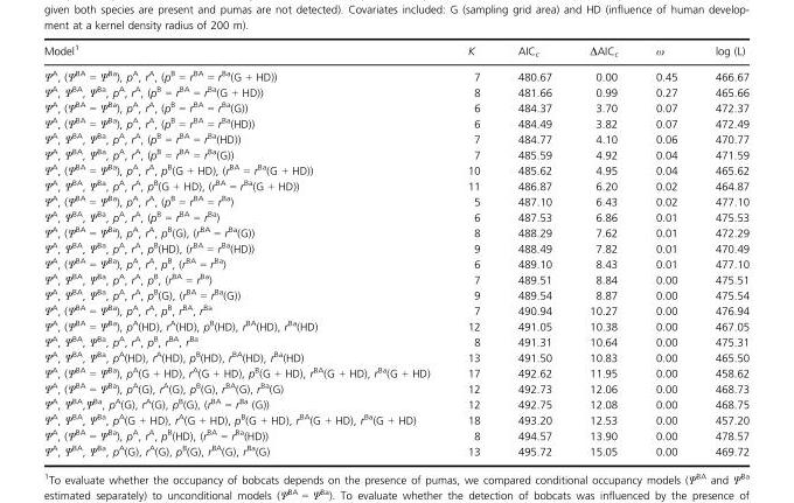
<table><thead><tr><td>Model1</td><td>K</td><td>AIC<sub>c</sub></td><td>ΔAIC<sub>c</sub></td><td>ω</td><td>log (L)</td></tr></thead><tbody><tr><td>Ψ<sup>A</sup>, (Ψ<sup>BA</sup> = Ψ<sup>Ba</sup>), p<sup>A</sup>, r<sup>A</sup>, (p<sup>B</sup> = r<sup>BA</sup> = r<sup>Ba</sup>(G + HD))</td><td>7</td><td>480.67</td><td>0.00</td><td>0.45</td><td>466.67</td></tr><tr><td>Ψ<sup>A</sup>, Ψ<sup>BA</sup>, Ψ<sup>Ba</sup>, p<sup>A</sup>, r<sup>A</sup>, (p<sup>B</sup> = r<sup>BA</sup> = r<sup>Ba</sup>(G + HD))</td><td>8</td><td>481.66</td><td>0.99</td><td>0.27</td><td>465.66</td></tr><tr><td>Ψ<sup>A</sup>, (Ψ<sup>BA</sup> = Ψ<sup>Ba</sup>), p<sup>A</sup>, r<sup>A</sup>, (p<sup>B</sup> = r<sup>BA</sup> = r<sup>Ba</sup>(G))</td><td>6</td><td>484.37</td><td>3.70</td><td>0.07</td><td>472.37</td></tr><tr><td>Ψ<sup>A</sup>, (Ψ<sup>BA</sup> = Ψ<sup>Ba</sup>), p<sup>A</sup>, r<sup>A</sup>, (p<sup>B</sup> = r<sup>BA</sup> = r<sup>Ba</sup>(HD))</td><td>6</td><td>484.49</td><td>3.82</td><td>0.07</td><td>472.49</td></tr><tr><td>Ψ<sup>A</sup>, Ψ<sup>BA</sup>, Ψ<sup>Ba</sup>, p<sup>A</sup>, r<sup>A</sup>, (p<sup>B</sup> = r<sup>BA</sup> = r<sup>Ba</sup>(HD))</td><td>7</td><td>484.77</td><td>4.10</td><td>0.06</td><td>470.77</td></tr><tr><td>Ψ<sup>A</sup>, Ψ<sup>BA</sup>, Ψ<sup>Ba</sup>, p<sup>A</sup>, r<sup>A</sup>, (p<sup>B</sup> = r<sup>BA</sup> = r<sup>Ba</sup>(G))</td><td>7</td><td>485.59</td><td>4.92</td><td>0.04</td><td>471.59</td></tr><tr><td>Ψ<sup>A</sup>, (Ψ<sup>BA</sup> = Ψ<sup>Ba</sup>), p<sup>A</sup>, r<sup>A</sup>, p<sup>B</sup>(G + HD), (r<sup>BA</sup> = r<sup>Ba</sup>(G + HD))</td><td>10</td><td>485.62</td><td>4.95</td><td>0.04</td><td>465.62</td></tr><tr><td>Ψ<sup>A</sup>, Ψ<sup>BA</sup>, Ψ<sup>Ba</sup>, p<sup>A</sup>, r<sup>A</sup>, p<sup>B</sup>(G + HD), (r<sup>BA</sup> = r<sup>Ba</sup>(G + HD))</td><td>11</td><td>486.87</td><td>6.20</td><td>0.02</td><td>464.87</td></tr><tr><td>Ψ<sup>A</sup>, (Ψ<sup>BA</sup> = Ψ<sup>Ba</sup>), p<sup>A</sup>, r<sup>A</sup>, (p<sup>B</sup> = r<sup>BA</sup> = r<sup>Ba</sup>)</td><td>5</td><td>487.10</td><td>6.43</td><td>0.02</td><td>477.10</td></tr><tr><td>Ψ<sup>A</sup>, Ψ<sup>BA</sup>, Ψ<sup>Ba</sup>, p<sup>A</sup>, r<sup>A</sup>, (p<sup>B</sup> = r<sup>BA</sup> = r<sup>Ba</sup>)</td><td>6</td><td>487.53</td><td>6.86</td><td>0.01</td><td>475.53</td></tr><tr><td>Ψ<sup>A</sup>, (Ψ<sup>BA</sup> = Ψ<sup>Ba</sup>), p<sup>A</sup>, r<sup>A</sup>, p<sup>B</sup>(G), (r<sup>BA</sup> = r<sup>Ba</sup>(G))</td><td>8</td><td>488.29</td><td>7.62</td><td>0.01</td><td>472.29</td></tr><tr><td>Ψ<sup>A</sup>, Ψ<sup>BA</sup>, Ψ<sup>Ba</sup>, p<sup>A</sup>, r<sup>A</sup>, p<sup>B</sup>(HD), (r<sup>BA</sup> = r<sup>Ba</sup>(HD))</td><td>9</td><td>488.49</td><td>7.82</td><td>0.01</td><td>470.49</td></tr><tr><td>Ψ<sup>A</sup>, (Ψ<sup>BA</sup> = Ψ<sup>Ba</sup>), p<sup>A</sup>, r<sup>A</sup>, p<sup>B</sup>, (r<sup>BA</sup> = r<sup>Ba</sup>)</td><td>6</td><td>489.10</td><td>8.43</td><td>0.01</td><td>477.10</td></tr><tr><td>Ψ<sup>A</sup>, Ψ<sup>BA</sup>, Ψ<sup>Ba</sup>, p<sup>A</sup>, r<sup>A</sup>, p<sup>B</sup>, (r<sup>BA</sup> = r<sup>Ba</sup>)</td><td>7</td><td>489.51</td><td>8.84</td><td>0.00</td><td>475.51</td></tr><tr><td>Ψ<sup>A</sup>, Ψ<sup>BA</sup>, Ψ<sup>Ba</sup>, p<sup>A</sup>, r<sup>A</sup>, p<sup>B</sup>(G), (r<sup>BA</sup> = r<sup>Ba</sup>(G))</td><td>9</td><td>489.54</td><td>8.87</td><td>0.00</td><td>475.54</td></tr><tr><td>Ψ<sup>A</sup>, (Ψ<sup>BA</sup> = Ψ<sup>Ba</sup>), p<sup>A</sup>, r<sup>A</sup>, p<sup>B</sup>, r<sup>BA</sup>, r<sup>Ba</sup></td><td>7</td><td>490.94</td><td>10.27</td><td>0.00</td><td>476.94</td></tr><tr><td>Ψ<sup>A</sup>, (Ψ<sup>BA</sup> = Ψ<sup>Ba</sup>), p<sup>A</sup>(HD), r<sup>A</sup>(HD), p<sup>B</sup>(HD), r<sup>BA</sup>(HD), r<sup>Ba</sup>(HD)</td><td>12</td><td>491.05</td><td>10.38</td><td>0.00</td><td>467.05</td></tr><tr><td>Ψ<sup>A</sup>, Ψ<sup>BA</sup>, Ψ<sup>Ba</sup>, p<sup>A</sup>, r<sup>A</sup>, p<sup>B</sup>, r<sup>BA</sup>, r<sup>Ba</sup></td><td>8</td><td>491.31</td><td>10.64</td><td>0.00</td><td>475.31</td></tr><tr><td>Ψ<sup>A</sup>, Ψ<sup>BA</sup>, Ψ<sup>Ba</sup>, p<sup>A</sup>(HD), r<sup>A</sup>(HD), p<sup>B</sup>(HD), r<sup>BA</sup>(HD), r<sup>Ba</sup>(HD)</td><td>13</td><td>491.50</td><td>10.83</td><td>0.00</td><td>465.50</td></tr><tr><td>Ψ<sup>A</sup>, (Ψ<sup>BA</sup> = Ψ<sup>Ba</sup>), p<sup>A</sup>(G + HD), r<sup>A</sup>(G + HD), p<sup>B</sup>(G + HD), r<sup>BA</sup>(G + HD), r<sup>Ba</sup>(G + HD)</td><td>17</td><td>492.62</td><td>11.95</td><td>0.00</td><td>458.62</td></tr><tr><td>Ψ<sup>A</sup>, (Ψ<sup>BA</sup> = Ψ<sup>Ba</sup>), p<sup>A</sup>(G), r<sup>A</sup>(G), p<sup>B</sup>(G), r<sup>BA</sup>(G), r<sup>Ba</sup>(G)</td><td>12</td><td>492.73</td><td>12.06</td><td>0.00</td><td>468.73</td></tr><tr><td>Ψ<sup>A</sup>, Ψ<sup>BA</sup>,Ψ<sup>Ba</sup>, p<sup>A</sup>(G), r<sup>A</sup>(G), p<sup>B</sup>(G), (r<sup>BA</sup> = r<sup>Ba</sup> (G))</td><td>12</td><td>492.75</td><td>12.08</td><td>0.00</td><td>468.75</td></tr><tr><td>Ψ<sup>A</sup>, Ψ<sup>BA</sup>, Ψ<sup>Ba</sup>, p<sup>A</sup>(G + HD), r<sup>A</sup>(G + HD), p<sup>B</sup>(G + HD), r<sup>BA</sup>(G + HD), r<sup>Ba</sup>(G + HD)</td><td>18</td><td>493.20</td><td>12.53</td><td>0.00</td><td>457.20</td></tr><tr><td>Ψ<sup>A</sup>, (Ψ<sup>BA</sup> = Ψ<sup>Ba</sup>), p<sup>A</sup>, r<sup>A</sup>, p<sup>B</sup>(HD), (r<sup>BA</sup> = r<sup>Ba</sup>(HD))</td><td>8</td><td>494.57</td><td>13.90</td><td>0.00</td><td>478.57</td></tr><tr><td>Ψ<sup>A</sup>, Ψ<sup>BA</sup>, Ψ<sup>Ba</sup>, p<sup>A</sup>(G), r<sup>A</sup>(G), p<sup>B</sup>(G), r<sup>BA</sup>(G), r<sup>Ba</sup>(G)</td><td>13</td><td>495.72</td><td>15.05</td><td>0.00</td><td>469.72</td></tr></tbody></table>